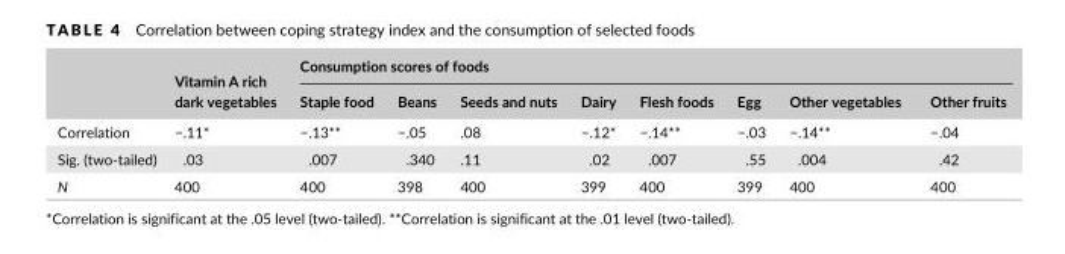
<table><thead><tr><td rowspan="2"></td><td rowspan="2">Vitamin A rich dark vegetables</td><td colspan="8">Consumption scores of foods</td></tr><tr><td>Staple food</td><td>Beans</td><td>Seeds and nuts</td><td>Dairy</td><td>Flesh foods</td><td>Egg</td><td>Other vegetables</td><td>Other fruits</td></tr></thead><tbody><tr><td>Correlation</td><td>−.11*</td><td>−.13**</td><td>−.05</td><td>.08</td><td>−.12*</td><td>−.14**</td><td>−.03</td><td>−.14**</td><td>−.04</td></tr><tr><td>Sig. (two- tailed)</td><td>.03</td><td>.007</td><td>.340</td><td>.11</td><td>.02</td><td>.007</td><td>.55</td><td>.004</td><td>.42</td></tr><tr><td>N</td><td>400</td><td>400</td><td>398</td><td>400</td><td>399</td><td>400</td><td>399</td><td>400</td><td>400</td></tr></tbody></table>